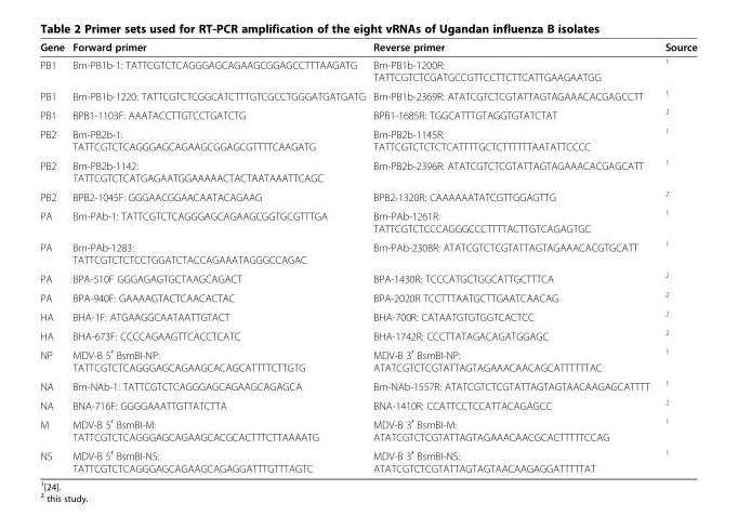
<table><thead><tr><td>Gene</td><td>Forward primer</td><td>Reverse primer</td><td>Source</td></tr></thead><tbody><tr><td>PB1</td><td>Bm-PB1b-1: TATTCGTCTCAGGGAGCAGAAGCGGAGCCTTTAAGATG</td><td>Bm-PB1b-1200R: TATTCGTCTCGATGCCGTTCCTTCTTCATTGAAGAATGG</td><td><sup>1</sup></td></tr><tr><td>PB1</td><td>Bm-PB1b-1220: TATTCGTCTCGGCATCTTTGTCGCCTGGGATGATGATG</td><td>Bm-PB1b-2369R: ATATCGTCTCGTATTAGTAGAAACACGAGCCTT</td><td><sup>1</sup></td></tr><tr><td>PB1</td><td>BPB1-1103F: AAATACCTTGTCCTGATCTG</td><td>BPB1-1685R: TGGCATTTGTAGGTGTATCTAT</td><td><sup>2</sup></td></tr><tr><td>PB2</td><td>Bm-PB2b-1: TATTCGTCTCAGGGAGCAGAAGCGGAGCGTTTTCAAGATG</td><td>Bm-PB2b-1145R: TATTCGTCTCTCTCATTTTGCTCTTTTTTAATATTCCCC</td><td><sup>1</sup></td></tr><tr><td>PB2</td><td>Bm-PB2b-1142: TATTCGTCTCATGAGAATGGAAAAACTACTAATAAATTCAGC</td><td>Bm-PB2b-2396R: ATATCGTCTCGTATTAGTAGAAACACGAGCATT</td><td><sup>1</sup></td></tr><tr><td>PB2</td><td>BPB2-1045F: GGGAACGGAACAATACAGAAG</td><td>BPB2-1320R: CAAAAAATATCGTTGGAGTTG</td><td><sup>2</sup></td></tr><tr><td>PA</td><td>Bm-PAb-1: TATTCGTCTCAGGGAGCAGAAGCGGTGCGTTTGA</td><td>Bm-PAb-1261R: TATTCGTCTCCCAGGGCCCTTTTACTTGTCAGAGTGC</td><td><sup>1</sup></td></tr><tr><td>PA</td><td>Bm-PAb-1283: TATTCGTCTCTCCTGGATCTACCAGAAATAGGGCCAGAC</td><td>Bm-PAb-2308R: ATATCGTCTCGTATTAGTAGAAACACGTGCATT</td><td><sup>1</sup></td></tr><tr><td>PA</td><td>BPA-510F GGGAGAGTGCTAAGCAGACT</td><td>BPA-1430R: TCCCATGCTGGCATTGCTTTCA</td><td><sup>2</sup></td></tr><tr><td>PA</td><td>BPA-940F: GAAAAGTACTCAACACTAC</td><td>BPA-2020R TCCTTTAATGCTTGAATCAACAG</td><td><sup>2</sup></td></tr><tr><td>HA</td><td>BHA-1F: ATGAAGGCAATAATTGTACT</td><td>BHA-700R: CATAATGTGTGGTCACTCC</td><td><sup>2</sup></td></tr><tr><td>HA</td><td>BHA-673F: CCCCAGAAGTTCACCTCATC</td><td>BHA-1742R: CCCTTATAGACAGATGGAGC</td><td><sup>2</sup></td></tr><tr><td>NP</td><td>MDV-B 5<sup>′</sup> BsmBI-NP: TATTCGTCTCAGGGAGCAGAAGCACAGCATTTTCTTGTG</td><td>MDV-B 3<sup>′</sup> BsmBI-NP: ATATCGTCTCGTATTAGTAGAAACAACAGCATTTTTTAC</td><td><sup>1</sup></td></tr><tr><td>NA</td><td>Bm-NAb-1: TATTCGTCTCAGGGAGCAGAAGCAGAGCA</td><td>Bm-NAb-1557R: ATATCGTCTCGTATTAGTAGTAACAAGAGCATTTT</td><td><sup>1</sup></td></tr><tr><td>NA</td><td>BNA-716F: GGGGAAATTGTTATCTTA</td><td>BNA-1410R: CCATTCCTCCATTACAGAGCC</td><td><sup>2</sup></td></tr><tr><td>M</td><td>MDV-B 5<sup>′</sup> BsmBI-M: TATTCGTCTCAGGGAGCAGAAGCACGCACTTTCTTAAAATG</td><td>MDV-B 3<sup>′</sup> BsmBI-M: ATATCGTCTCGTATTAGTAGAAACAACGCACTTTTTCCAG</td><td><sup>1</sup></td></tr><tr><td>NS</td><td>MDV-B 5<sup>′</sup> BsmBI-NS: TATTCGTCTCAGGGAGCAGAAGCAGAGGATTTGTTTAGTC</td><td>MDV-B 3<sup>′</sup> BsmBI-NS: ATATCGTCTCGTATTAGTAGTAACAAGAGGATTTTTAT</td><td><sup>1</sup></td></tr></tbody></table>